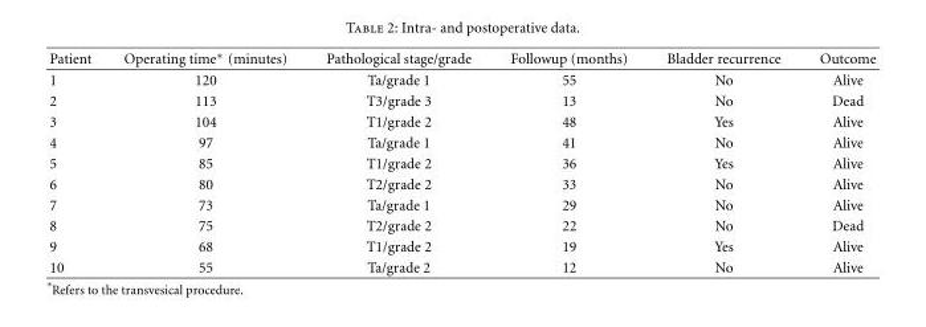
<table><thead><tr><td>Patient</td><td>Operating time∗ (minutes)</td><td>Pathological stage/grade</td><td>Followup (months)</td><td>Bladder recurrence</td><td>Outcome</td></tr></thead><tbody><tr><td>1</td><td>120</td><td>Ta/grade 1</td><td>55</td><td>No</td><td>Alive</td></tr><tr><td>2</td><td>113</td><td>T3/grade 3</td><td>13</td><td>No</td><td>Dead</td></tr><tr><td>3</td><td>104</td><td>T1/grade 2</td><td>48</td><td>Yes</td><td>Alive</td></tr><tr><td>4</td><td>97</td><td>Ta/grade 1</td><td>41</td><td>No</td><td>Alive</td></tr><tr><td>5</td><td>85</td><td>T1/grade 2</td><td>36</td><td>Yes</td><td>Alive</td></tr><tr><td>6</td><td>80</td><td>T2/grade 2</td><td>33</td><td>No</td><td>Alive</td></tr><tr><td>7</td><td>73</td><td>Ta/grade 1</td><td>29</td><td>No</td><td>Alive</td></tr><tr><td>8</td><td>75</td><td>T2/grade 2</td><td>22</td><td>No</td><td>Dead</td></tr><tr><td>9</td><td>68</td><td>T1/grade 2</td><td>19</td><td>Yes</td><td>Alive</td></tr><tr><td>10</td><td>55</td><td>Ta/grade 2</td><td>12</td><td>No</td><td>Alive</td></tr></tbody></table>